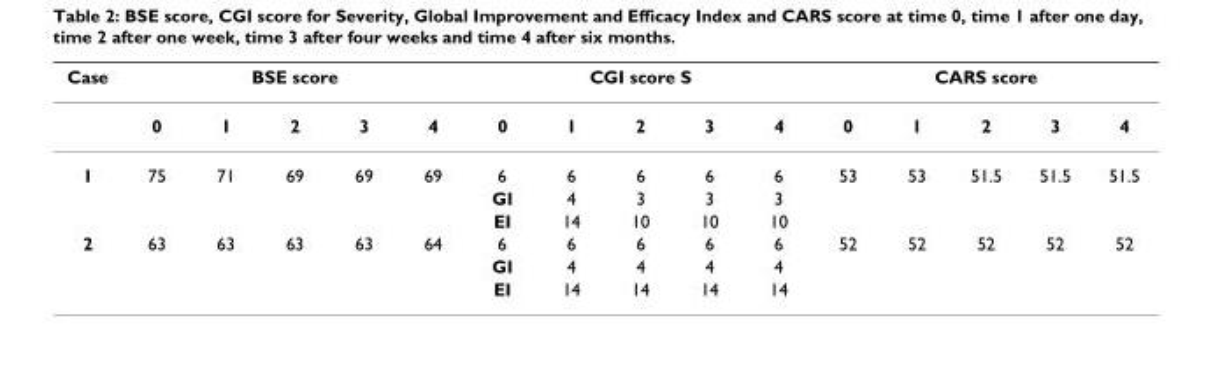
<table><thead><tr><td rowspan="2">Case</td><td colspan="5">BSE score</td><td colspan="5">CGI score S</td><td colspan="5">CARS score</td></tr><tr><td>0</td><td>1</td><td>2</td><td>3</td><td>4</td><td>0</td><td>1</td><td>2</td><td>3</td><td>4</td><td>0</td><td>1</td><td>2</td><td>3</td><td>4</td></tr></thead><tbody><tr><td rowspan="3">1</td><td>75</td><td>71</td><td>69</td><td>69</td><td>69</td><td>6</td><td>6</td><td>6</td><td>6</td><td>6</td><td>53</td><td>53</td><td>51.5</td><td>51.5</td><td>51.5</td></tr><tr><td></td><td></td><td></td><td></td><td></td><td>GI</td><td>4</td><td>3</td><td>3</td><td>3</td><td></td><td></td><td></td><td></td><td></td></tr><tr><td></td><td></td><td></td><td></td><td></td><td>EI</td><td>14</td><td>10</td><td>10</td><td>10</td><td></td><td></td><td></td><td></td><td></td></tr><tr><td rowspan="3">2</td><td>63</td><td>63</td><td>63</td><td>63</td><td>64</td><td>6</td><td>6</td><td>6</td><td>6</td><td>6</td><td>52</td><td>52</td><td>52</td><td>52</td><td>52</td></tr><tr><td></td><td></td><td></td><td></td><td></td><td>GI</td><td>4</td><td>4</td><td>4</td><td>4</td><td></td><td></td><td></td><td></td><td></td></tr><tr><td></td><td></td><td></td><td></td><td></td><td>EI</td><td>14</td><td>14</td><td>14</td><td>14</td><td></td><td></td><td></td><td></td><td></td></tr></tbody></table>